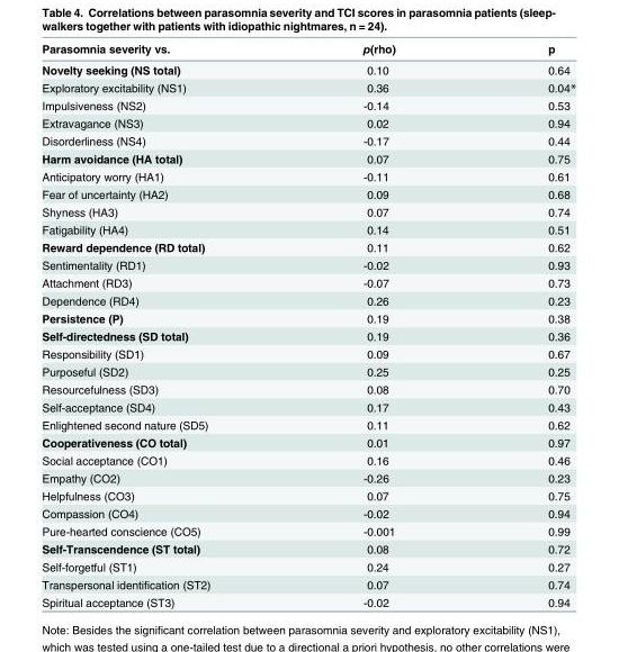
<table><thead><tr><td>Parasomnia severity vs.</td><td>p(rho)</td><td>p</td></tr></thead><tbody><tr><td>Novelty seeking (NS total)</td><td>0.10</td><td>0.64</td></tr><tr><td>Exploratory excitability (NS1)</td><td>0.36</td><td>0.04*</td></tr><tr><td>Impulsiveness (NS2)</td><td>-0.14</td><td>0.53</td></tr><tr><td>Extravagance (NS3)</td><td>0.02</td><td>0.94</td></tr><tr><td>Disorderliness (NS4)</td><td>-0.17</td><td>0.44</td></tr><tr><td>Harm avoidance (HA total)</td><td>0.07</td><td>0.75</td></tr><tr><td>Anticipatory worry (HA1)</td><td>-0.11</td><td>0.61</td></tr><tr><td>Fear of uncertainty (HA2)</td><td>0.09</td><td>0.68</td></tr><tr><td>Shyness (HA3)</td><td>0.07</td><td>0.74</td></tr><tr><td>Fatigability (HA4)</td><td>0.14</td><td>0.51</td></tr><tr><td>Reward dependence (RD total)</td><td>0.11</td><td>0.62</td></tr><tr><td>Sentimentality (RD1)</td><td>-0.02</td><td>0.93</td></tr><tr><td>Attachment (RD3)</td><td>-0.07</td><td>0.73</td></tr><tr><td>Dependence (RD4)</td><td>0.26</td><td>0.23</td></tr><tr><td>Persistence (P)</td><td>0.19</td><td>0.38</td></tr><tr><td>Self-directedness (SD total)</td><td>0.19</td><td>0.36</td></tr><tr><td>Responsibility (SD1)</td><td>0.09</td><td>0.67</td></tr><tr><td>Purposeful (SD2)</td><td>0.25</td><td>0.25</td></tr><tr><td>Resourcefulness (SD3)</td><td>0.08</td><td>0.70</td></tr><tr><td>Self-acceptance (SD4)</td><td>0.17</td><td>0.43</td></tr><tr><td>Enlightened second nature (SD5)</td><td>0.11</td><td>0.62</td></tr><tr><td>Cooperativeness (CO total)</td><td>0.01</td><td>0.97</td></tr><tr><td>Social acceptance (CO1)</td><td>0.16</td><td>0.46</td></tr><tr><td>Empathy (CO2)</td><td>-0.26</td><td>0.23</td></tr><tr><td>Helpfulness (CO3)</td><td>0.07</td><td>0.75</td></tr><tr><td>Compassion (CO4)</td><td>-0.02</td><td>0.94</td></tr><tr><td>Pure-hearted conscience (CO5)</td><td>-0.001</td><td>0.99</td></tr><tr><td>Self-Transcendence (ST total)</td><td>0.08</td><td>0.72</td></tr><tr><td>Self-forgetful (ST1)</td><td>0.24</td><td>0.27</td></tr><tr><td>Transpersonal identification (ST2)</td><td>0.07</td><td>0.74</td></tr><tr><td>Spiritual acceptance (ST3)</td><td>-0.02</td><td>0.94</td></tr></tbody></table>